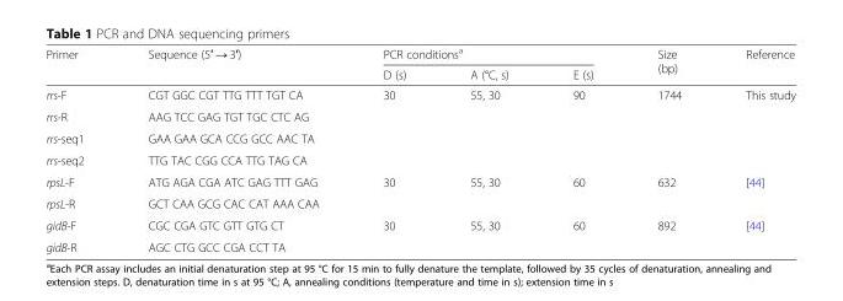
<table><thead><tr><td rowspan="2">Primer</td><td rowspan="2">Sequence (5′ → 3′)</td><td colspan="3">PCR conditions<sup>a</sup></td><td rowspan="2">Size (bp)</td><td rowspan="2">Reference</td></tr><tr><td>D (s)</td><td>A (°C, s)</td><td>E (s)</td></tr></thead><tbody><tr><td>rrs-F</td><td>CGT GGC CGT TTG TTT TGT CA</td><td rowspan="4">30</td><td rowspan="4">55, 30</td><td rowspan="4">90</td><td rowspan="4">1744</td><td rowspan="4">This study</td></tr><tr><td>rrs-R</td><td>AAG TCC GAG TGT TGC CTC AG</td></tr><tr><td>rrs-seq1</td><td>GAA GAA GCA CCG GCC AAC TA</td></tr><tr><td>rrs-seq2</td><td>TTG TAC CGG CCA TTG TAG CA</td></tr><tr><td>rpsL-F</td><td>ATG AGA CGA ATC GAG TTT GAG</td><td rowspan="2">30</td><td rowspan="2">55, 30</td><td rowspan="2">60</td><td rowspan="2">632</td><td rowspan="2">[44]</td></tr><tr><td>rpsL-R</td><td>GCT CAA GCG CAC CAT AAA CAA</td></tr><tr><td>gidB-F</td><td>CGC CGA GTC GTT GTG CT</td><td rowspan="2">30</td><td rowspan="2">55, 30</td><td rowspan="2">60</td><td rowspan="2">892</td><td rowspan="2">[44]</td></tr><tr><td>gidB-R</td><td>AGC CTG GCC CGA CCT TA</td></tr></tbody></table>